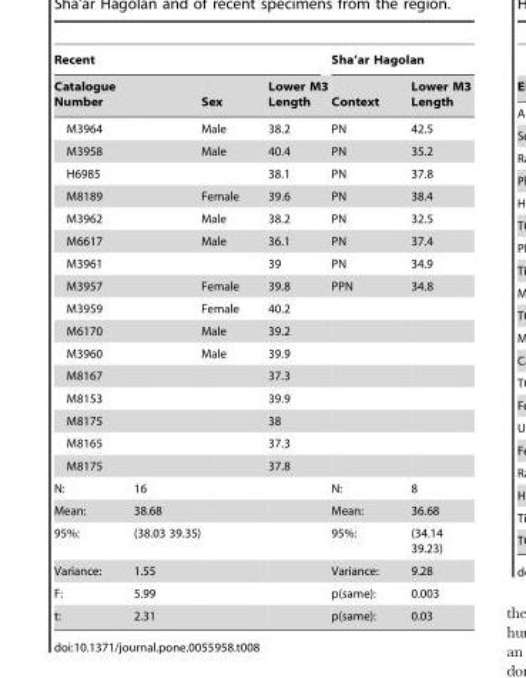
<table><thead><tr><td colspan="4">Recent</td><td colspan="2">Sha’ar Hagolan</td></tr><tr><td>Catalogue Number</td><td></td><td>Sex</td><td>Lower M3 Length</td><td>Context</td><td>Lower M3 Length</td></tr></thead><tbody><tr><td>M3964</td><td></td><td>Male</td><td>38.2</td><td>PN</td><td>42.5</td></tr><tr><td>M3958</td><td></td><td>Male</td><td>40.4</td><td>PN</td><td>35.2</td></tr><tr><td>H6985</td><td></td><td></td><td>38.1</td><td>PN</td><td>37.8</td></tr><tr><td>M8189</td><td></td><td>Female</td><td>39.6</td><td>PN</td><td>38.4</td></tr><tr><td>M3962</td><td></td><td>Male</td><td>38.2</td><td>PN</td><td>32.5</td></tr><tr><td>M6617</td><td></td><td>Male</td><td>36.1</td><td>PN</td><td>37.4</td></tr><tr><td>M3961</td><td></td><td></td><td>39</td><td>PN</td><td>34.9</td></tr><tr><td>M3957</td><td></td><td>Female</td><td>39.8</td><td>PPN</td><td>34.8</td></tr><tr><td>M3959</td><td></td><td>Female</td><td>40.2</td><td></td><td></td></tr><tr><td>M6170</td><td></td><td>Male</td><td>39.2</td><td></td><td></td></tr><tr><td>M3960</td><td></td><td>Male</td><td>39.9</td><td></td><td></td></tr><tr><td>M8167</td><td></td><td></td><td>37.3</td><td></td><td></td></tr><tr><td>M8153</td><td></td><td></td><td>39.9</td><td></td><td></td></tr><tr><td>M8175</td><td></td><td></td><td>38</td><td></td><td></td></tr><tr><td>M8165</td><td></td><td></td><td>37.3</td><td></td><td></td></tr><tr><td>M8175</td><td></td><td></td><td>37.8</td><td></td><td></td></tr><tr><td>N:</td><td>16</td><td></td><td></td><td>N:</td><td>8</td></tr><tr><td>Mean:</td><td>38.68</td><td></td><td></td><td>Mean:</td><td>36.68</td></tr><tr><td>95%:</td><td>(38.03 39.35)</td><td></td><td></td><td>95%:</td><td>(34.14 39.23)</td></tr><tr><td>Variance:</td><td>1.55</td><td></td><td></td><td>Variance:</td><td>9.28</td></tr><tr><td>F:</td><td>5.99</td><td></td><td></td><td>p(same):</td><td>0.003</td></tr><tr><td>t:</td><td>2.31</td><td></td><td></td><td>p(same):</td><td>0.03</td></tr></tbody></table>